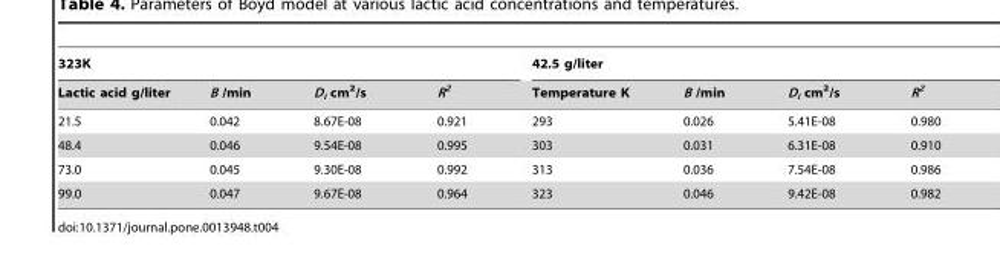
<table><thead><tr><td colspan="4">323K</td><td colspan="4">42.5 g/liter</td></tr><tr><td>Lactic acid g/liter</td><td>B /min</td><td>D<sub>i</sub> cm<sup>2</sup>/s</td><td>R<sup>2</sup></td><td>Temperature K</td><td>B /min</td><td>D<sub>i</sub> cm<sup>2</sup>/s</td><td>R<sup>2</sup></td></tr></thead><tbody><tr><td>21.5</td><td>0.042</td><td>8.67E-08</td><td>0.921</td><td>293</td><td>0.026</td><td>5.41E-08</td><td>0.980</td></tr><tr><td>48.4</td><td>0.046</td><td>9.54E-08</td><td>0.995</td><td>303</td><td>0.031</td><td>6.31E-08</td><td>0.910</td></tr><tr><td>73.0</td><td>0.045</td><td>9.30E-08</td><td>0.992</td><td>313</td><td>0.036</td><td>7.54E-08</td><td>0.986</td></tr><tr><td>99.0</td><td>0.047</td><td>9.67E-08</td><td>0.964</td><td>323</td><td>0.046</td><td>9.42E-08</td><td>0.982</td></tr></tbody></table>